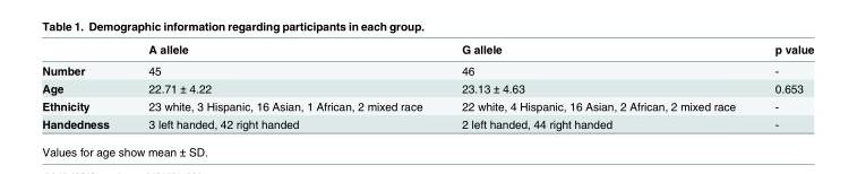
<table><thead><tr><td></td><td>A allele</td><td>G allele</td><td>p value</td></tr></thead><tbody><tr><td>Number</td><td>45</td><td>46</td><td>-</td></tr><tr><td>Age</td><td>22.71 ± 4.22</td><td>23.13 ± 4.63</td><td>0.653</td></tr><tr><td>Ethnicity</td><td>23 white, 3 Hispanic, 16 Asian, 1 African, 2 mixed race</td><td>22 white, 4 Hispanic, 16 Asian, 2 African, 2 mixed race</td><td>-</td></tr><tr><td>Handedness</td><td>3 left handed, 42 right handed</td><td>2 left handed, 44 right handed</td><td>-</td></tr></tbody></table>